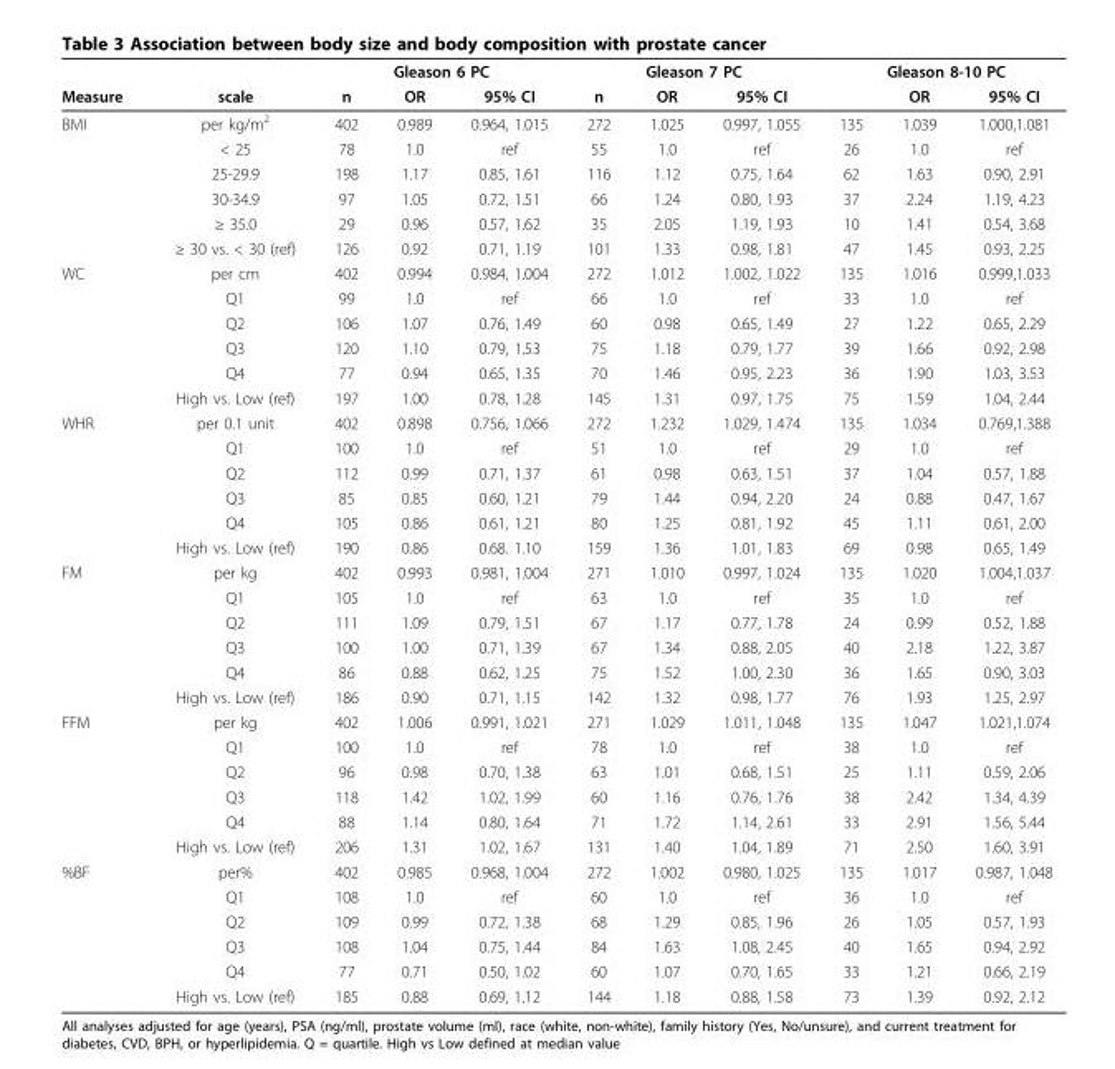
<table><thead><tr><td rowspan="2">Measure</td><td rowspan="2">scale</td><td colspan="3">Gleason 6 PC</td><td colspan="3">Gleason 7 PC</td><td colspan="3">Gleason 8-10 PC</td></tr><tr><td>n</td><td>OR</td><td>95% CI</td><td>n</td><td>OR</td><td>95% CI</td><td></td><td>OR</td><td>95% CI</td></tr></thead><tbody><tr><td rowspan="6">BMI</td><td>per kg/m<sup>2</sup></td><td>402</td><td>0.989</td><td>0.964, 1.015</td><td>272</td><td>1.025</td><td>0.997, 1.055</td><td>135</td><td>1.039</td><td>1.000,1.081</td></tr><tr><td>&lt; 25</td><td>78</td><td>1.0</td><td>ref</td><td>55</td><td>1.0</td><td>ref</td><td>26</td><td>1.0</td><td>ref</td></tr><tr><td>25-29.9</td><td>198</td><td>1.17</td><td>0.85, 1.61</td><td>116</td><td>1.12</td><td>0.75, 1.64</td><td>62</td><td>1.63</td><td>0.90, 2.91</td></tr><tr><td>30-34.9</td><td>97</td><td>1.05</td><td>0.72, 1.51</td><td>66</td><td>1.24</td><td>0.80, 1.93</td><td>37</td><td>2.24</td><td>1.19, 4.23</td></tr><tr><td>≥ 35.0</td><td>29</td><td>0.96</td><td>0.57, 1.62</td><td>35</td><td>2.05</td><td>1.19, 1.93</td><td>10</td><td>1.41</td><td>0.54, 3.68</td></tr><tr><td>≥ 30 vs. &lt; 30 (ref)</td><td>126</td><td>0.92</td><td>0.71, 1.19</td><td>101</td><td>1.33</td><td>0.98, 1.81</td><td>47</td><td>1.45</td><td>0.93, 2.25</td></tr><tr><td rowspan="6">WC</td><td>per cm</td><td>402</td><td>0.994</td><td>0.984, 1.004</td><td>272</td><td>1.012</td><td>1.002, 1.022</td><td>135</td><td>1.016</td><td>0.999,1.033</td></tr><tr><td>Q1</td><td>99</td><td>1.0</td><td>ref</td><td>66</td><td>1.0</td><td>ref</td><td>33</td><td>1.0</td><td>ref</td></tr><tr><td>Q2</td><td>106</td><td>1.07</td><td>0.76, 1.49</td><td>60</td><td>0.98</td><td>0.65, 1.49</td><td>27</td><td>1.22</td><td>0.65, 2.29</td></tr><tr><td>Q3</td><td>120</td><td>1.10</td><td>0.79, 1.53</td><td>75</td><td>1.18</td><td>0.79, 1.77</td><td>39</td><td>1.66</td><td>0.92, 2.98</td></tr><tr><td>Q4</td><td>77</td><td>0.94</td><td>0.65, 1.35</td><td>70</td><td>1.46</td><td>0.95, 2.23</td><td>36</td><td>1.90</td><td>1.03, 3.53</td></tr><tr><td>High vs. Low (ref)</td><td>197</td><td>1.00</td><td>0.78, 1.28</td><td>145</td><td>1.31</td><td>0.97, 1.75</td><td>75</td><td>1.59</td><td>1.04, 2.44</td></tr><tr><td rowspan="6">WHR</td><td>per 0.1 unit</td><td>402</td><td>0.898</td><td>0.756, 1.066</td><td>272</td><td>1.232</td><td>1.029, 1.474</td><td>135</td><td>1.034</td><td>0.769,1.388</td></tr><tr><td>Q1</td><td>100</td><td>1.0</td><td>ref</td><td>51</td><td>1.0</td><td>ref</td><td>29</td><td>1.0</td><td>ref</td></tr><tr><td>Q2</td><td>112</td><td>0.99</td><td>0.71, 1.37</td><td>61</td><td>0.98</td><td>0.63, 1.51</td><td>37</td><td>1.04</td><td>0.57, 1.88</td></tr><tr><td>Q3</td><td>85</td><td>0.85</td><td>0.60, 1.21</td><td>79</td><td>1.44</td><td>0.94, 2.20</td><td>24</td><td>0.88</td><td>0.47, 1.67</td></tr><tr><td>Q4</td><td>105</td><td>0.86</td><td>0.61, 1.21</td><td>80</td><td>1.25</td><td>0.81, 1.92</td><td>45</td><td>1.11</td><td>0.61, 2.00</td></tr><tr><td>High vs. Low (ref)</td><td>190</td><td>0.86</td><td>0.68. 1.10</td><td>159</td><td>1.36</td><td>1.01, 1.83</td><td>69</td><td>0.98</td><td>0.65, 1.49</td></tr><tr><td rowspan="6">FM</td><td>per kg</td><td>402</td><td>0.993</td><td>0.981, 1.004</td><td>271</td><td>1.010</td><td>0.997, 1.024</td><td>135</td><td>1.020</td><td>1.004,1.037</td></tr><tr><td>Q1</td><td>105</td><td>1.0</td><td>ref</td><td>63</td><td>1.0</td><td>ref</td><td>35</td><td>1.0</td><td>ref</td></tr><tr><td>Q2</td><td>111</td><td>1.09</td><td>0.79, 1.51</td><td>67</td><td>1.17</td><td>0.77, 1.78</td><td>24</td><td>0.99</td><td>0.52, 1.88</td></tr><tr><td>Q3</td><td>100</td><td>1.00</td><td>0.71, 1.39</td><td>67</td><td>1.34</td><td>0.88, 2.05</td><td>40</td><td>2.18</td><td>1.22, 3.87</td></tr><tr><td>Q4</td><td>86</td><td>0.88</td><td>0.62, 1.25</td><td>75</td><td>1.52</td><td>1.00, 2.30</td><td>36</td><td>1.65</td><td>0.90, 3.03</td></tr><tr><td>High vs. Low (ref)</td><td>186</td><td>0.90</td><td>0.71, 1.15</td><td>142</td><td>1.32</td><td>0.98, 1.77</td><td>76</td><td>1.93</td><td>1.25, 2.97</td></tr><tr><td rowspan="6">FFM</td><td>per kg</td><td>402</td><td>1.006</td><td>0.991, 1.021</td><td>271</td><td>1.029</td><td>1.011, 1.048</td><td>135</td><td>1.047</td><td>1.021,1.074</td></tr><tr><td>Q1</td><td>100</td><td>1.0</td><td>ref</td><td>78</td><td>1.0</td><td>ref</td><td>38</td><td>1.0</td><td>ref</td></tr><tr><td>Q2</td><td>96</td><td>0.98</td><td>0.70, 1.38</td><td>63</td><td>1.01</td><td>0.68, 1.51</td><td>25</td><td>1.11</td><td>0.59, 2.06</td></tr><tr><td>Q3</td><td>118</td><td>1.42</td><td>1.02, 1.99</td><td>60</td><td>1.16</td><td>0.76, 1.76</td><td>38</td><td>2.42</td><td>1.34, 4.39</td></tr><tr><td>Q4</td><td>88</td><td>1.14</td><td>0.80, 1.64</td><td>71</td><td>1.72</td><td>1.14, 2.61</td><td>33</td><td>2.91</td><td>1.56, 5.44</td></tr><tr><td>High vs. Low (ref)</td><td>206</td><td>1.31</td><td>1.02, 1.67</td><td>131</td><td>1.40</td><td>1.04, 1.89</td><td>71</td><td>2.50</td><td>1.60, 3.91</td></tr><tr><td rowspan="6">%BF</td><td>per%</td><td>402</td><td>0.985</td><td>0.968, 1.004</td><td>272</td><td>1.002</td><td>0.980, 1.025</td><td>135</td><td>1.017</td><td>0.987, 1.048</td></tr><tr><td>Q1</td><td>108</td><td>1.0</td><td>ref</td><td>60</td><td>1.0</td><td>ref</td><td>36</td><td>1.0</td><td>ref</td></tr><tr><td>Q2</td><td>109</td><td>0.99</td><td>0.72, 1.38</td><td>68</td><td>1.29</td><td>0.85, 1.96</td><td>26</td><td>1.05</td><td>0.57, 1.93</td></tr><tr><td>Q3</td><td>108</td><td>1.04</td><td>0.75, 1.44</td><td>84</td><td>1.63</td><td>1.08, 2.45</td><td>40</td><td>1.65</td><td>0.94, 2.92</td></tr><tr><td>Q4</td><td>77</td><td>0.71</td><td>0.50, 1.02</td><td>60</td><td>1.07</td><td>0.70, 1.65</td><td>33</td><td>1.21</td><td>0.66, 2.19</td></tr><tr><td>High vs. Low (ref)</td><td>185</td><td>0.88</td><td>0.69, 1.12</td><td>144</td><td>1.18</td><td>0.88, 1.58</td><td>73</td><td>1.39</td><td>0.92, 2.12</td></tr></tbody></table>